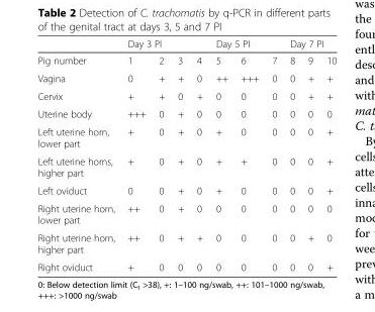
<table><thead><tr><td rowspan="2">Pig number</td><td colspan="4">Day 3 PI</td><td colspan="3">Day 5 PI</td><td colspan="3">Day 7 PI</td></tr><tr><td>1</td><td>2</td><td>3</td><td>4</td><td>5</td><td>6</td><td>7</td><td>8</td><td>9</td><td>10</td></tr></thead><tbody><tr><td>Vagina</td><td>0</td><td>+</td><td>+</td><td>0</td><td>++</td><td>+++</td><td>0</td><td>0</td><td>+</td><td>+</td></tr><tr><td>Cervix</td><td>+</td><td>+</td><td>0</td><td>+</td><td>0</td><td>0</td><td>0</td><td>0</td><td>+</td><td>+</td></tr><tr><td>Uterine body</td><td>+++</td><td>0</td><td>+</td><td>0</td><td>0</td><td>0</td><td>0</td><td>0</td><td>0</td><td>0</td></tr><tr><td>Left uterine horn, lower part</td><td>+</td><td>0</td><td>+</td><td>0</td><td>+</td><td>0</td><td>0</td><td>0</td><td>0</td><td>+</td></tr><tr><td>Left uterine horns, higher part</td><td>+</td><td>0</td><td>+</td><td>0</td><td>+</td><td>+</td><td>0</td><td>0</td><td>0</td><td>+</td></tr><tr><td>Left oviduct</td><td>0</td><td>0</td><td>+</td><td>0</td><td>+</td><td>0</td><td>0</td><td>0</td><td>0</td><td>+</td></tr><tr><td>Right uterine horn, lower part</td><td>++</td><td>0</td><td>+</td><td>0</td><td>0</td><td>0</td><td>0</td><td>0</td><td>0</td><td>0</td></tr><tr><td>Right uterine horn, higher part</td><td>++</td><td>0</td><td>+</td><td>+</td><td>0</td><td>0</td><td>0</td><td>0</td><td>+</td><td>0</td></tr><tr><td>Right oviduct</td><td>+</td><td>0</td><td>0</td><td>0</td><td>0</td><td>0</td><td>0</td><td>0</td><td>0</td><td>+</td></tr></tbody></table>